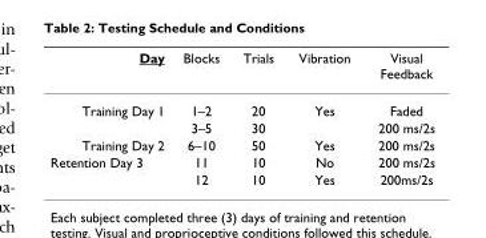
<table><thead><tr><td>Day</td><td>Blocks</td><td>Trials</td><td>Vibration</td><td>Visual Feedback</td></tr></thead><tbody><tr><td rowspan="2">Training Day 1</td><td>1–2</td><td>20</td><td>Yes</td><td>Faded</td></tr><tr><td>3–5</td><td>30</td><td></td><td>200 ms/2s</td></tr><tr><td>Training Day 2</td><td>6–10</td><td>50</td><td>Yes</td><td>200 ms/2s</td></tr><tr><td rowspan="2">Retention Day 3</td><td>11</td><td>10</td><td>No</td><td>200 ms/2s</td></tr><tr><td>12</td><td>10</td><td>Yes</td><td>200ms/2s</td></tr></tbody></table>